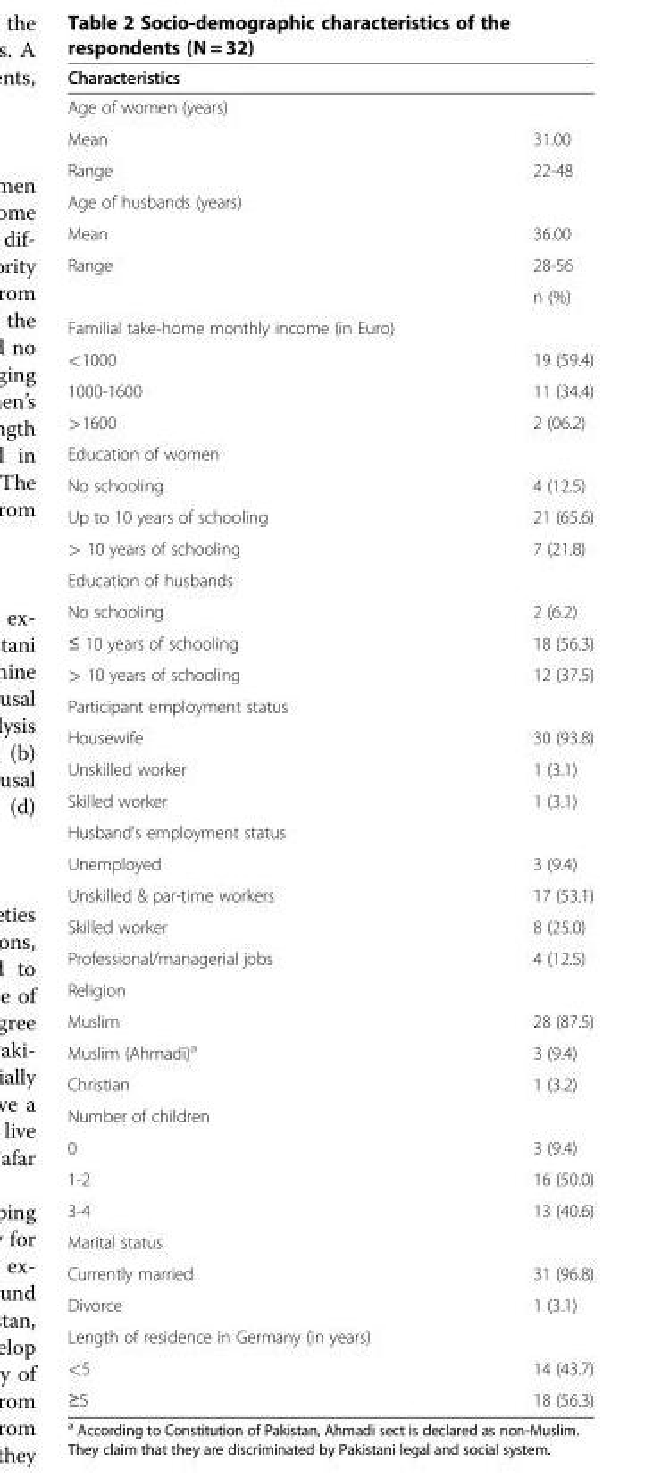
<table><thead><tr><td colspan="2">Characteristics</td></tr><tr><td>Age of women (years)</td><td></td></tr></thead><tbody><tr><td>Mean</td><td>31.00</td></tr><tr><td>Range</td><td>22-48</td></tr><tr><td colspan="2">Age of husbands (years)</td></tr><tr><td>Mean</td><td>36.00</td></tr><tr><td rowspan="2">Range</td><td>28-56</td></tr><tr><td>n (%)</td></tr><tr><td colspan="2">Familial take-home monthly income (in Euro)</td></tr><tr><td>&lt;1000</td><td>19 (59.4)</td></tr><tr><td>1000-1600</td><td>11 (34.4)</td></tr><tr><td>&gt;1600</td><td>2 (06.2)</td></tr><tr><td colspan="2">Education of women</td></tr><tr><td>No schooling</td><td>4 (12.5)</td></tr><tr><td>Up to 10 years of schooling</td><td>21 (65.6)</td></tr><tr><td>&gt; 10 years of schooling</td><td>7 (21.8)</td></tr><tr><td colspan="2">Education of husbands</td></tr><tr><td>No schooling</td><td>2 (6.2)</td></tr><tr><td>≤ 10 years of schooling</td><td>18 (56.3)</td></tr><tr><td>&gt; 10 years of schooling</td><td>12 (37.5)</td></tr><tr><td colspan="2">Participant employment status</td></tr><tr><td>Housewife</td><td>30 (93.8)</td></tr><tr><td>Unskilled worker</td><td>1 (3.1)</td></tr><tr><td>Skilled worker</td><td>1 (3.1)</td></tr><tr><td colspan="2">Husband’s employment status</td></tr><tr><td>Unemployed</td><td>3 (9.4)</td></tr><tr><td>Unskilled &amp; par-time workers</td><td>17 (53.1)</td></tr><tr><td>Skilled worker</td><td>8 (25.0)</td></tr><tr><td>Professional/managerial jobs</td><td>4 (12.5)</td></tr><tr><td colspan="2">Religion</td></tr><tr><td>Muslim</td><td>28 (87.5)</td></tr><tr><td>Muslim (Ahmadi)<sup>a</sup></td><td>3 (9.4)</td></tr><tr><td>Christian</td><td>1 (3.2)</td></tr><tr><td colspan="2">Number of children</td></tr><tr><td>0</td><td>3 (9.4)</td></tr><tr><td>1-2</td><td>16 (50.0)</td></tr><tr><td>3-4</td><td>13 (40.6)</td></tr><tr><td colspan="2">Marital status</td></tr><tr><td>Currently married</td><td>31 (96.8)</td></tr><tr><td>Divorce</td><td>1 (3.1)</td></tr><tr><td colspan="2">Length of residence in Germany (in years)</td></tr><tr><td>&lt;5</td><td>14 (43.7)</td></tr><tr><td>≥5</td><td>18 (56.3)</td></tr></tbody></table>